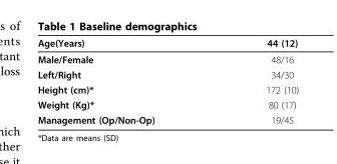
<table><thead><tr><td>Age(Years)</td><td>44 (12)</td></tr></thead><tbody><tr><td>Male/Female</td><td>48/16</td></tr><tr><td>Left/Right</td><td>34/30</td></tr><tr><td>Height (cm)*</td><td>172 (10)</td></tr><tr><td>Weight (Kg)*</td><td>80 (17)</td></tr><tr><td>Management (Op/Non-Op)</td><td>19/45</td></tr></tbody></table>